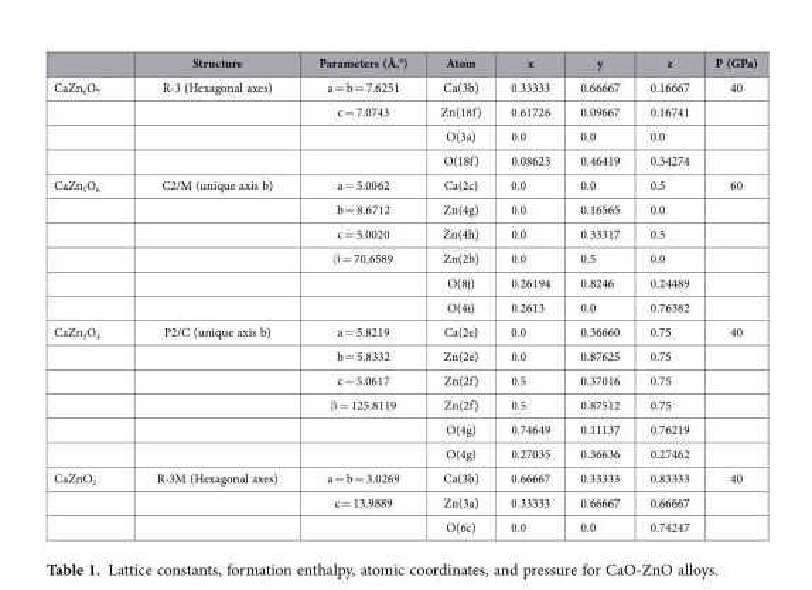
<table><thead><tr><td></td><td>Structure</td><td>Parameters (Å,°)</td><td>Atom</td><td>x</td><td>y</td><td>z</td><td>P (GPa)</td></tr></thead><tbody><tr><td rowspan="4">CaZn<sub>6</sub>O<sub>7</sub></td><td>R-3 (Hexagonal axes)</td><td>a = b = 7.6251</td><td>Ca(3b)</td><td>0.33333</td><td>0.66667</td><td>0.16667</td><td>40</td></tr><tr><td></td><td>c = 7.0743</td><td>Zn(18f)</td><td>0.61726</td><td>0.09667</td><td>0.16741</td><td></td></tr><tr><td></td><td></td><td>O(3a)</td><td>0.0</td><td>0.0</td><td>0.0</td><td></td></tr><tr><td></td><td></td><td>O(18f)</td><td>0.08623</td><td>0.46419</td><td>0.34274</td><td></td></tr><tr><td rowspan="6">CaZn<sub>5</sub>O<sub>6</sub></td><td>C2/M (unique axis b)</td><td>a = 5.0062</td><td>Ca(2c)</td><td>0.0</td><td>0.0</td><td>0.5</td><td>60</td></tr><tr><td></td><td>b = 8.6712</td><td>Zn(4g)</td><td>0.0</td><td>0.16565</td><td>0.0</td><td></td></tr><tr><td></td><td>c = 5.0020</td><td>Zn(4h)</td><td>0.0</td><td>0.33317</td><td>0.5</td><td></td></tr><tr><td></td><td>β = 70.6589</td><td>Zn(2b)</td><td>0.0</td><td>0.5</td><td>0.0</td><td></td></tr><tr><td></td><td></td><td>O(8j)</td><td>0.26194</td><td>0.8246</td><td>0.24489</td><td></td></tr><tr><td></td><td></td><td>O(4i)</td><td>0.2613</td><td>0.0</td><td>0.76382</td><td></td></tr><tr><td rowspan="6">CaZn<sub>3</sub>O<sub>4</sub></td><td>P2/C (unique axis b)</td><td>a = 5.8219</td><td>Ca(2e)</td><td>0.0</td><td>0.36660</td><td>0.75</td><td>40</td></tr><tr><td></td><td>b = 5.8332</td><td>Zn(2e)</td><td>0.0</td><td>0.87625</td><td>0.75</td><td></td></tr><tr><td></td><td>c = 5.0617</td><td>Zn(2f)</td><td>0.5</td><td>0.37016</td><td>0.75</td><td></td></tr><tr><td></td><td>β = 125.8119</td><td>Zn(2f)</td><td>0.5</td><td>0.87512</td><td>0.75</td><td></td></tr><tr><td></td><td></td><td>O(4g)</td><td>0.74649</td><td>0.11137</td><td>0.76219</td><td></td></tr><tr><td></td><td></td><td>O(4g)</td><td>0.27035</td><td>0.36636</td><td>0.27462</td><td></td></tr><tr><td rowspan="3">CaZnO<sub>2</sub></td><td>R-3M (Hexagonal axes)</td><td>a = b = 3.0269</td><td>Ca(3b)</td><td>0.66667</td><td>0.33333</td><td>0.83333</td><td>40</td></tr><tr><td></td><td>c = 13.9889</td><td>Zn(3a)</td><td>0.33333</td><td>0.66667</td><td>0.66667</td><td></td></tr><tr><td></td><td></td><td>O(6c)</td><td>0.0</td><td>0.0</td><td>0.74247</td><td></td></tr></tbody></table>